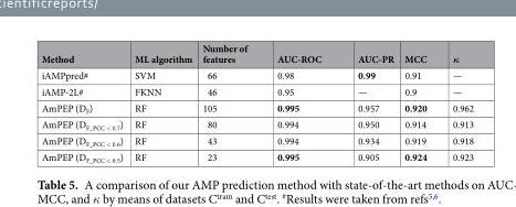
<table><thead><tr><td>Method</td><td>ML algorithm</td><td>Number of features</td><td>AUC-ROC</td><td>AUC-PR</td><td>MCC</td><td>κ</td></tr></thead><tbody><tr><td>iAMPpred#</td><td>SVM</td><td>66</td><td>0.98</td><td>0.99</td><td>0.91</td><td>—</td></tr><tr><td>iAMP-2L#</td><td>FKNN</td><td>46</td><td>0.95</td><td>—</td><td>0.9</td><td>—</td></tr><tr><td>AmPEP (D<sub>F</sub>)</td><td>RF</td><td>105</td><td>0.995</td><td>0.957</td><td>0.920</td><td>0.962</td></tr><tr><td>AmPEP (D<sub>F_PCC &lt; 0.7</sub>)</td><td>RF</td><td>80</td><td>0.994</td><td>0.950</td><td>0.914</td><td>0.913</td></tr><tr><td>AmPEP (D<sub>F_PCC &lt; 0.6</sub>)</td><td>RF</td><td>43</td><td>0.994</td><td>0.934</td><td>0.919</td><td>0.918</td></tr><tr><td>AmPEP (D<sub>F_PCC &lt; 0.5</sub>)</td><td>RF</td><td>23</td><td>0.995</td><td>0.905</td><td>0.924</td><td>0.923</td></tr></tbody></table>